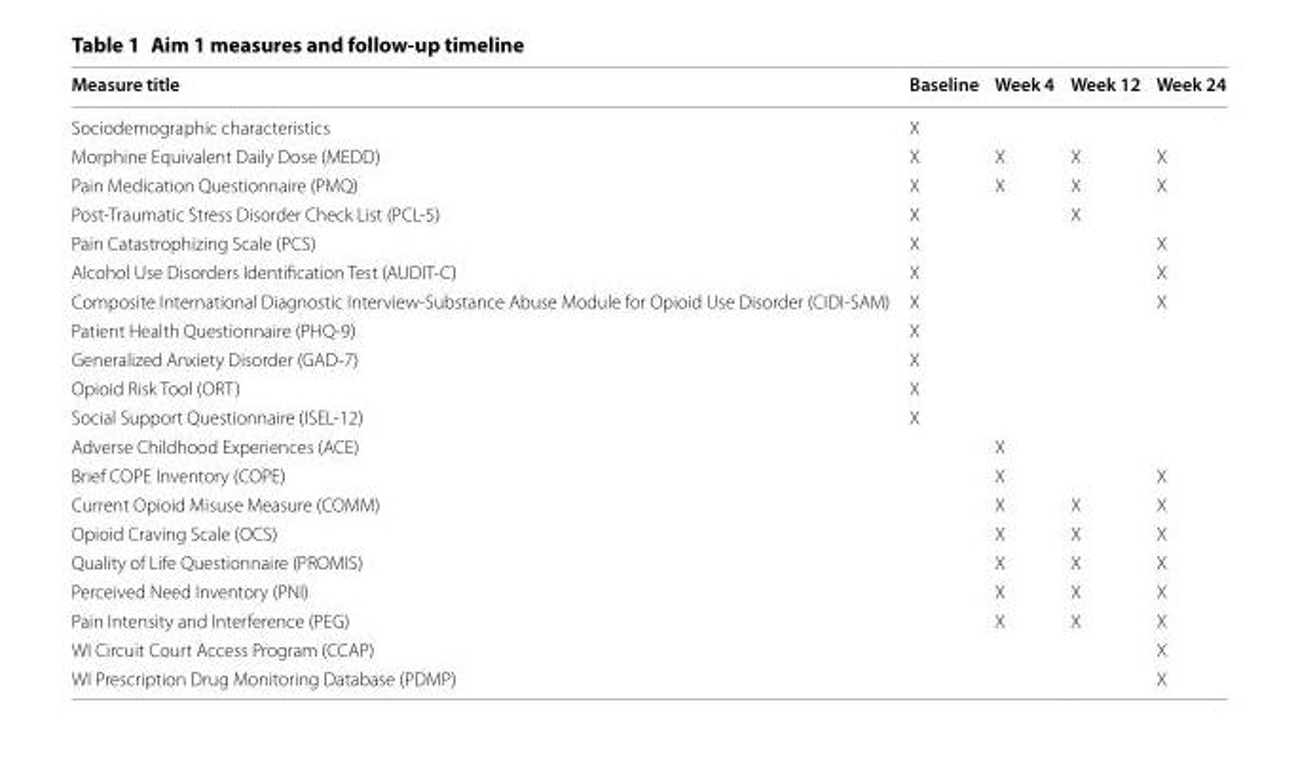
<table><thead><tr><td>Measure title</td><td>Baseline</td><td>Week 4</td><td>Week 12</td><td>Week 24</td></tr></thead><tbody><tr><td>Sociodemographic characteristics</td><td>X</td><td></td><td></td><td></td></tr><tr><td>Morphine Equivalent Daily Dose (MEDD)</td><td>X</td><td>X</td><td>X</td><td>X</td></tr><tr><td>Pain Medication Questionnaire (PMQ)</td><td>X</td><td>X</td><td>X</td><td>X</td></tr><tr><td>Post-Traumatic Stress Disorder Check List (PCL-5)</td><td>X</td><td></td><td>X</td><td></td></tr><tr><td>Pain Catastrophizing Scale (PCS)</td><td>X</td><td></td><td></td><td>X</td></tr><tr><td>Alcohol Use Disorders Identification Test (AUDIT-C)</td><td>X</td><td></td><td></td><td>X</td></tr><tr><td>Composite International Diagnostic Interview-Substance Abuse Module for Opioid Use Disorder (CIDI-SAM)</td><td>X</td><td></td><td></td><td>X</td></tr><tr><td>Patient Health Questionnaire (PHQ-9)</td><td>X</td><td></td><td></td><td></td></tr><tr><td>Generalized Anxiety Disorder (GAD-7)</td><td>X</td><td></td><td></td><td></td></tr><tr><td>Opioid Risk Tool (ORT)</td><td>X</td><td></td><td></td><td></td></tr><tr><td>Social Support Questionnaire (ISEL-12)</td><td>X</td><td></td><td></td><td></td></tr><tr><td>Adverse Childhood Experiences (ACE)</td><td></td><td>X</td><td></td><td></td></tr><tr><td>Brief COPE Inventory (COPE)</td><td></td><td>X</td><td></td><td>X</td></tr><tr><td>Current Opioid Misuse Measure (COMM)</td><td></td><td>X</td><td>X</td><td>X</td></tr><tr><td>Opioid Craving Scale (OCS)</td><td></td><td>X</td><td>X</td><td>X</td></tr><tr><td>Quality of Life Questionnaire (PROMIS)</td><td></td><td>X</td><td>X</td><td>X</td></tr><tr><td>Perceived Need Inventory (PNI)</td><td></td><td>X</td><td>X</td><td>X</td></tr><tr><td>Pain Intensity and Interference (PEG)</td><td></td><td>X</td><td>X</td><td>X</td></tr><tr><td>WI Circuit Court Access Program (CCAP)</td><td></td><td></td><td></td><td>X</td></tr><tr><td>WI Prescription Drug Monitoring Database (PDMP)</td><td></td><td></td><td></td><td>X</td></tr></tbody></table>